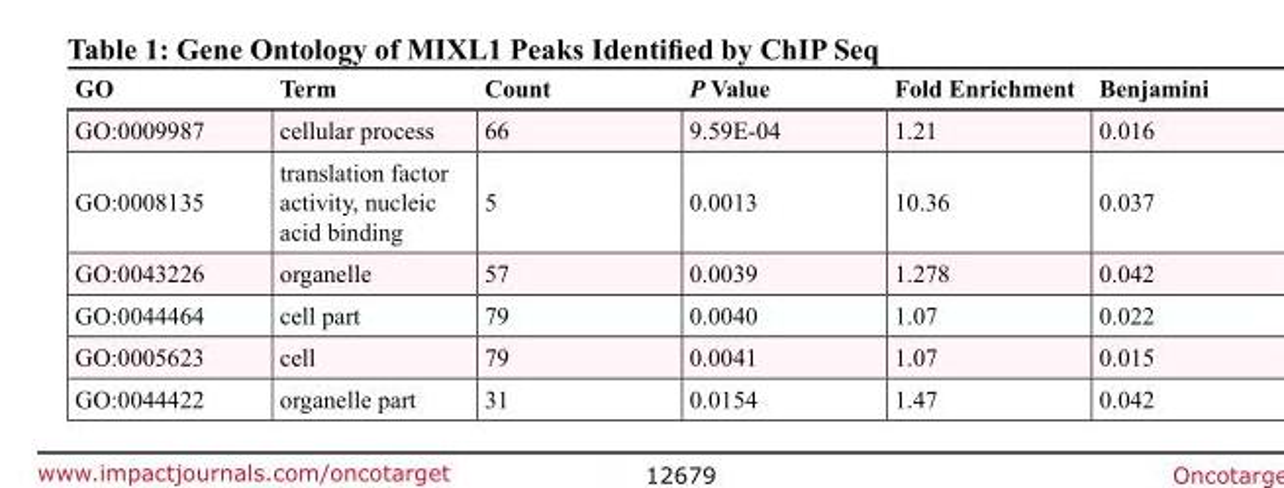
<table><thead><tr><td>GO</td><td>Term</td><td>Count</td><td>P Value</td><td>Fold Enrichment</td><td>Benjamini</td></tr></thead><tbody><tr><td>GO:0009987</td><td>cellular process</td><td>66</td><td>9.59E-04</td><td>1.21</td><td>0.016</td></tr><tr><td>GO:0008135</td><td>translation factor activity, nucleic acid binding</td><td>5</td><td>0.0013</td><td>10.36</td><td>0.037</td></tr><tr><td>GO:0043226</td><td>organelle</td><td>57</td><td>0.0039</td><td>1.278</td><td>0.042</td></tr><tr><td>GO:0044464</td><td>cell part</td><td>79</td><td>0.0040</td><td>1.07</td><td>0.022</td></tr><tr><td>GO:0005623</td><td>cell</td><td>79</td><td>0.0041</td><td>1.07</td><td>0.015</td></tr><tr><td>GO:0044422</td><td>organelle part</td><td>31</td><td>0.0154</td><td>1.47</td><td>0.042</td></tr></tbody></table>